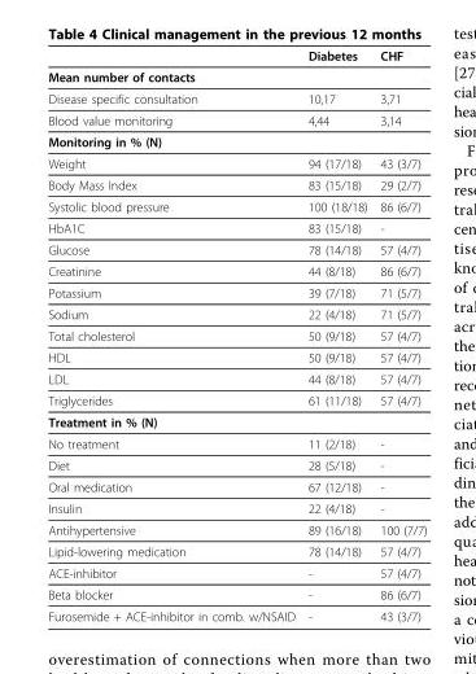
<table><thead><tr><td></td><td>Diabetes</td><td>CHF</td></tr></thead><tbody><tr><td colspan="3">Mean number of contacts</td></tr><tr><td>Disease specific consultation</td><td>10,17</td><td>3,71</td></tr><tr><td>Blood value monitoring</td><td>4,44</td><td>3,14</td></tr><tr><td colspan="3">Monitoring in % (N)</td></tr><tr><td>Weight</td><td>94 (17/18)</td><td>43 (3/7)</td></tr><tr><td>Body Mass Index</td><td>83 (15/18)</td><td>29 (2/7)</td></tr><tr><td>Systolic blood pressure</td><td>100 (18/18)</td><td>86 (6/7)</td></tr><tr><td>HbA1C</td><td>83 (15/18)</td><td>-</td></tr><tr><td>Glucose</td><td>78 (14/18)</td><td>57 (4/7)</td></tr><tr><td>Creatinine</td><td>44 (8/18)</td><td>86 (6/7)</td></tr><tr><td>Potassium</td><td>39 (7/18)</td><td>71 (5/7)</td></tr><tr><td>Sodium</td><td>22 (4/18)</td><td>71 (5/7)</td></tr><tr><td>Total cholesterol</td><td>50 (9/18)</td><td>57 (4/7)</td></tr><tr><td>HDL</td><td>50 (9/18)</td><td>57 (4/7)</td></tr><tr><td>LDL</td><td>44 (8/18)</td><td>57 (4/7)</td></tr><tr><td>Triglycerides</td><td>61 (11/18)</td><td>57 (4/7)</td></tr><tr><td colspan="3">Treatment in % (N)</td></tr><tr><td>No treatment</td><td>11 (2/18)</td><td>-</td></tr><tr><td>Diet</td><td>28 (5/18)</td><td>-</td></tr><tr><td>Oral medication</td><td>67 (12/18)</td><td>-</td></tr><tr><td>Insulin</td><td>22 (4/18)</td><td>-</td></tr><tr><td>Antihypertensive</td><td>89 (16/18)</td><td>100 (7/7)</td></tr><tr><td>Lipid-lowering medication</td><td>78 (14/18)</td><td>57 (4/7)</td></tr><tr><td>ACE-inhibitor</td><td>-</td><td>57 (4/7)</td></tr><tr><td>Beta blocker</td><td>-</td><td>86 (6/7)</td></tr><tr><td>Furosemide + ACE-inhibitor in comb. w/NSAID</td><td>-</td><td>43 (3/7)</td></tr></tbody></table>